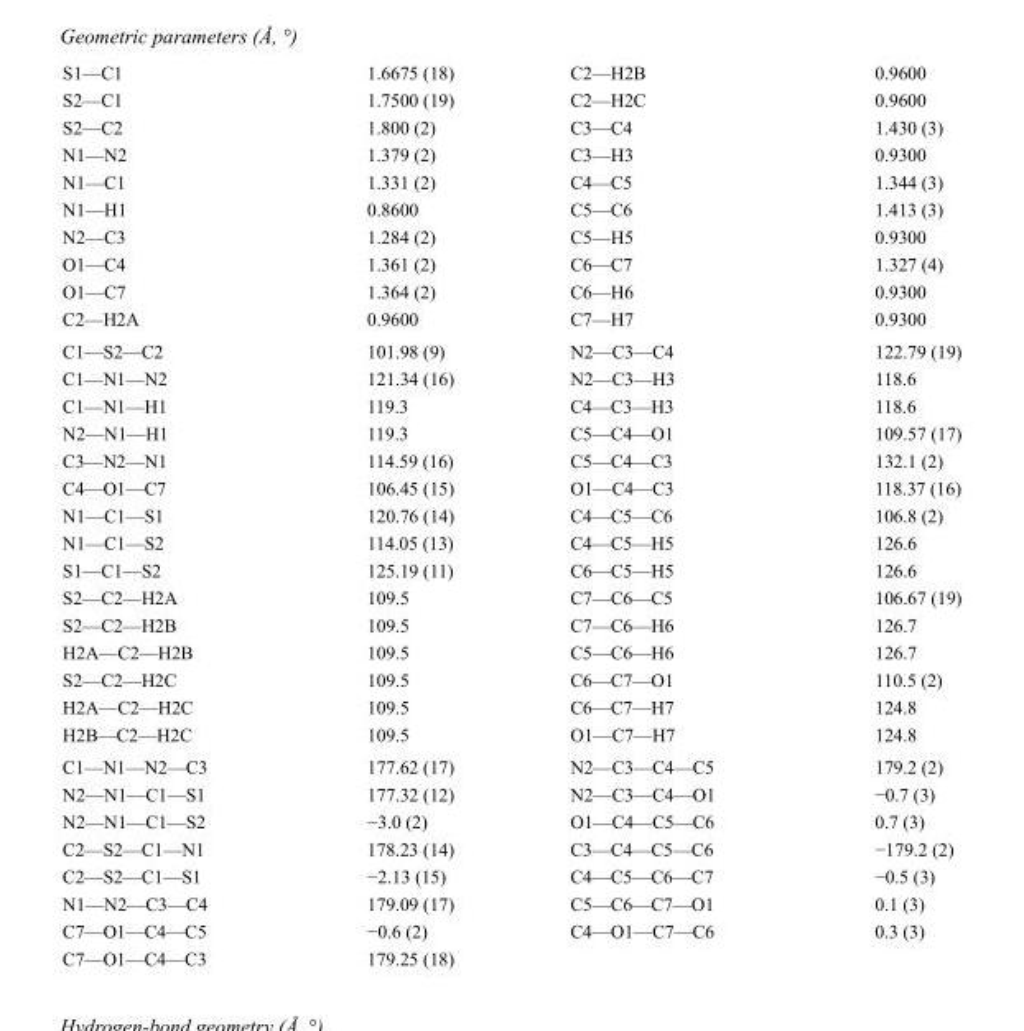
<table><tbody><tr><td>S1—C1</td><td>1.6675 (18)</td><td>C2—H2B</td><td>0.9600</td></tr><tr><td>S2—C1</td><td>1.7500 (19)</td><td>C2—H2C</td><td>0.9600</td></tr><tr><td>S2—C2</td><td>1.800 (2)</td><td>C3—C4</td><td>1.430 (3)</td></tr><tr><td>N1—N2</td><td>1.379 (2)</td><td>C3—H3</td><td>0.9300</td></tr><tr><td>N1—C1</td><td>1.331 (2)</td><td>C4—C5</td><td>1.344 (3)</td></tr><tr><td>N1—H1</td><td>0.8600</td><td>C5—C6</td><td>1.413 (3)</td></tr><tr><td>N2—C3</td><td>1.284 (2)</td><td>C5—H5</td><td>0.9300</td></tr><tr><td>O1—C4</td><td>1.361 (2)</td><td>C6—C7</td><td>1.327 (4)</td></tr><tr><td>O1—C7</td><td>1.364 (2)</td><td>C6—H6</td><td>0.9300</td></tr><tr><td>C2—H2A</td><td>0.9600</td><td>C7—H7</td><td>0.9300</td></tr><tr><td>C1—S2—C2</td><td>101.98 (9)</td><td>N2—C3—C4</td><td>122.79 (19)</td></tr><tr><td>C1—N1—N2</td><td>121.34 (16)</td><td>N2—C3—H3</td><td>118.6</td></tr><tr><td>C1—N1—H1</td><td>119.3</td><td>C4—C3—H3</td><td>118.6</td></tr><tr><td>N2—N1—H1</td><td>119.3</td><td>C5—C4—O1</td><td>109.57 (17)</td></tr><tr><td>C3—N2—N1</td><td>114.59 (16)</td><td>C5—C4—C3</td><td>132.1 (2)</td></tr><tr><td>C4—O1—C7</td><td>106.45 (15)</td><td>O1—C4—C3</td><td>118.37 (16)</td></tr><tr><td>N1—C1—S1</td><td>120.76 (14)</td><td>C4—C5—C6</td><td>106.8 (2)</td></tr><tr><td>N1—C1—S2</td><td>114.05 (13)</td><td>C4—C5—H5</td><td>126.6</td></tr><tr><td>S1—C1—S2</td><td>125.19 (11)</td><td>C6—C5—H5</td><td>126.6</td></tr><tr><td>S2—C2—H2A</td><td>109.5</td><td>C7—C6—C5</td><td>106.67 (19)</td></tr><tr><td>S2—C2—H2B</td><td>109.5</td><td>C7—C6—H6</td><td>126.7</td></tr><tr><td>H2A—C2—H2B</td><td>109.5</td><td>C5—C6—H6</td><td>126.7</td></tr><tr><td>S2—C2—H2C</td><td>109.5</td><td>C6—C7—O1</td><td>110.5 (2)</td></tr><tr><td>H2A—C2—H2C</td><td>109.5</td><td>C6—C7—H7</td><td>124.8</td></tr><tr><td>H2B—C2—H2C</td><td>109.5</td><td>O1—C7—H7</td><td>124.8</td></tr><tr><td>C1—N1—N2—C3</td><td>177.62 (17)</td><td>N2—C3—C4—C5</td><td>179.2 (2)</td></tr><tr><td>N2—N1—C1—S1</td><td>177.32 (12)</td><td>N2—C3—C4—O1</td><td>−0.7 (3)</td></tr><tr><td>N2—N1—C1—S2</td><td>−3.0 (2)</td><td>O1—C4—C5—C6</td><td>0.7 (3)</td></tr><tr><td>C2—S2—C1—N1</td><td>178.23 (14)</td><td>C3—C4—C5—C6</td><td>−179.2 (2)</td></tr><tr><td>C2—S2—C1—S1</td><td>−2.13 (15)</td><td>C4—C5—C6—C7</td><td>−0.5 (3)</td></tr><tr><td>N1—N2—C3—C4</td><td>179.09 (17)</td><td>C5—C6—C7—O1</td><td>0.1 (3)</td></tr><tr><td>C7—O1—C4—C5</td><td>−0.6 (2)</td><td>C4—O1—C7—C6</td><td>0.3 (3)</td></tr><tr><td>C7—O1—C4—C3</td><td>179.25 (18)</td><td></td><td></td></tr></tbody></table>